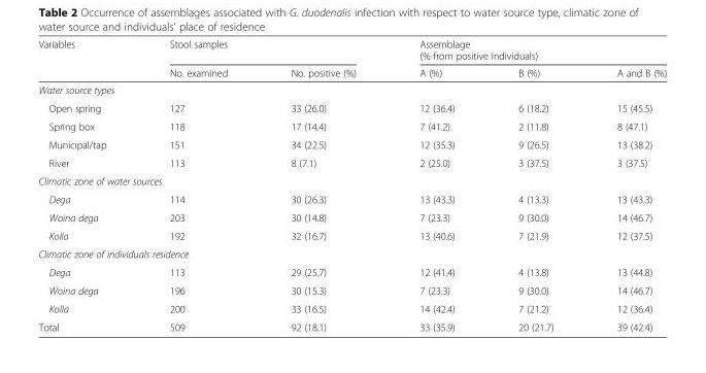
<table><thead><tr><td rowspan="2">Variables</td><td colspan="2">Stool samples</td><td colspan="3">Assemblage (% from positive individuals)</td></tr><tr><td>No. examined</td><td>No. positive (%)</td><td>A (%)</td><td>B (%)</td><td>A and B (%)</td></tr></thead><tbody><tr><td colspan="6">Water source types</td></tr><tr><td>Open spring</td><td>127</td><td>33 (26.0)</td><td>12 (36.4)</td><td>6 (18.2)</td><td>15 (45.5)</td></tr><tr><td>Spring box</td><td>118</td><td>17 (14.4)</td><td>7 (41.2)</td><td>2 (11.8)</td><td>8 (47.1)</td></tr><tr><td>Municipal/tap</td><td>151</td><td>34 (22.5)</td><td>12 (35.3)</td><td>9 (26.5)</td><td>13 (38.2)</td></tr><tr><td>River</td><td>113</td><td>8 (7.1)</td><td>2 (25.0)</td><td>3 (37.5)</td><td>3 (37.5)</td></tr><tr><td colspan="6">Climatic zone of water sources</td></tr><tr><td>Dega</td><td>114</td><td>30 (26.3)</td><td>13 (43.3)</td><td>4 (13.3)</td><td>13 (43.3)</td></tr><tr><td>Woina dega</td><td>203</td><td>30 (14.8)</td><td>7 (23.3)</td><td>9 (30.0)</td><td>14 (46.7)</td></tr><tr><td>Kolla</td><td>192</td><td>32 (16.7)</td><td>13 (40.6)</td><td>7 (21.9)</td><td>12 (37.5)</td></tr><tr><td colspan="6">Climatic zone of individuals residence</td></tr><tr><td>Dega</td><td>113</td><td>29 (25.7)</td><td>12 (41.4)</td><td>4 (13.8)</td><td>13 (44.8)</td></tr><tr><td>Woina dega</td><td>196</td><td>30 (15.3)</td><td>7 (23.3)</td><td>9 (30.0)</td><td>14 (46.7)</td></tr><tr><td>Kolla</td><td>200</td><td>33 (16.5)</td><td>14 (42.4)</td><td>7 (21.2)</td><td>12 (36.4)</td></tr><tr><td>Total</td><td>509</td><td>92 (18.1)</td><td>33 (35.9)</td><td>20 (21.7)</td><td>39 (42.4)</td></tr></tbody></table>